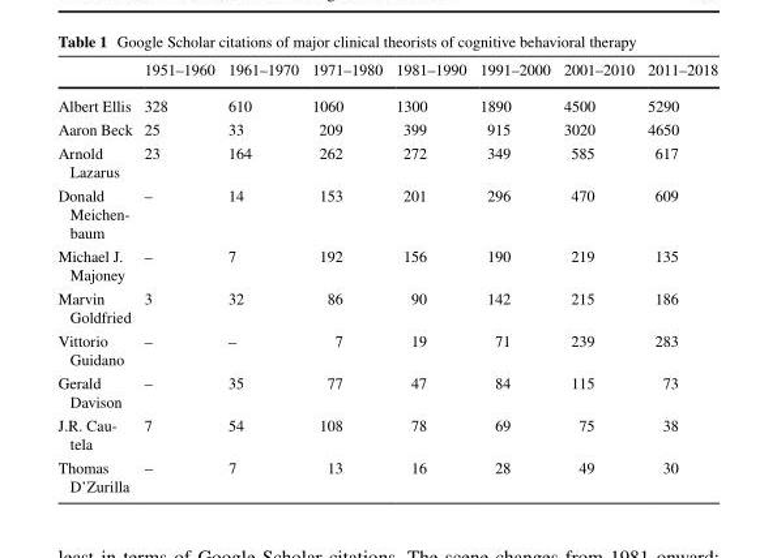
<table><thead><tr><td></td><td>1951–1960</td><td>1961–1970</td><td>1971–1980</td><td>1981–1990</td><td>1991–2000</td><td>2001–2010</td><td>2011–2018</td></tr></thead><tbody><tr><td>Albert Ellis</td><td>328</td><td>610</td><td>1060</td><td>1300</td><td>1890</td><td>4500</td><td>5290</td></tr><tr><td>Aaron Beck</td><td>25</td><td>33</td><td>209</td><td>399</td><td>915</td><td>3020</td><td>4650</td></tr><tr><td>Arnold Lazarus</td><td>23</td><td>164</td><td>262</td><td>272</td><td>349</td><td>585</td><td>617</td></tr><tr><td>Donald Meichen- baum</td><td>–</td><td>14</td><td>153</td><td>201</td><td>296</td><td>470</td><td>609</td></tr><tr><td>Michael J. Majoney</td><td>–</td><td>7</td><td>192</td><td>156</td><td>190</td><td>219</td><td>135</td></tr><tr><td>Marvin Goldfried</td><td>3</td><td>32</td><td>86</td><td>90</td><td>142</td><td>215</td><td>186</td></tr><tr><td>Vittorio Guidano</td><td>–</td><td>–</td><td>7</td><td>19</td><td>71</td><td>239</td><td>283</td></tr><tr><td>Gerald Davison</td><td>–</td><td>35</td><td>77</td><td>47</td><td>84</td><td>115</td><td>73</td></tr><tr><td>J.R. Cau- tela</td><td>7</td><td>54</td><td>108</td><td>78</td><td>69</td><td>75</td><td>38</td></tr><tr><td>Thomas D’Zurilla</td><td>–</td><td>7</td><td>13</td><td>16</td><td>28</td><td>49</td><td>30</td></tr></tbody></table>